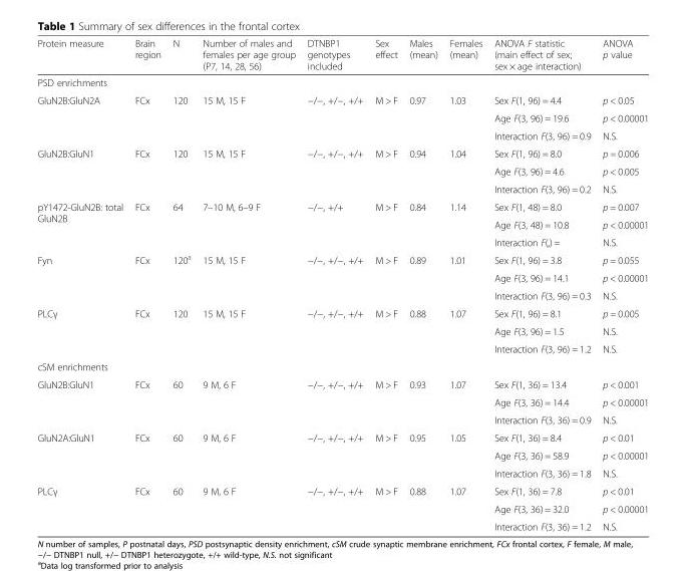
<table><thead><tr><td>Protein measure</td><td>Brain region</td><td>N</td><td>Number of males and females per age group (P7, 14, 28, 56)</td><td>DTNBP1 genotypes included</td><td>Sex effect</td><td>Males (mean)</td><td>Females (mean)</td><td>ANOVA F statistic (main effect of sex; sex × age interaction)</td><td>ANOVA p value</td></tr></thead><tbody><tr><td colspan="10">PSD enrichments</td></tr><tr><td rowspan="3">GluN2B:GluN2A</td><td rowspan="3">FCx</td><td rowspan="3">120</td><td>15 M, 15 F</td><td rowspan="3">−/−, +/−, +/+</td><td rowspan="3">M &gt; F</td><td rowspan="3">0.97</td><td rowspan="3">1.03</td><td>Sex F(1, 96) = 4.4</td><td>p &lt; 0.05</td></tr><tr><td rowspan="2"></td><td>Age F(3, 96) = 19.6</td><td>p &lt; 0.00001</td></tr><tr><td>Interaction F(3, 96) = 0.9</td><td>N.S.</td></tr><tr><td rowspan="3">GluN2B:GluN1</td><td rowspan="3">FCx</td><td rowspan="3">120</td><td>15 M, 15 F</td><td rowspan="3">−/−, +/−, +/+</td><td rowspan="3">M &gt; F</td><td rowspan="3">0.94</td><td rowspan="3">1.04</td><td>Sex F(1, 96) = 8.0</td><td>p = 0.006</td></tr><tr><td rowspan="2"></td><td>Age F(3, 96) = 4.6</td><td>p &lt; 0.005</td></tr><tr><td>Interaction F(3, 96) = 0.2</td><td>N.S.</td></tr><tr><td rowspan="3">pY1472-GluN2B: total GluN2B</td><td rowspan="3">FCx</td><td rowspan="3">64</td><td>7–10 M, 6–9 F</td><td rowspan="3">−/−, +/+</td><td rowspan="3">M &gt; F</td><td rowspan="3">0.84</td><td rowspan="3">1.14</td><td>Sex F(1, 48) = 8.0</td><td>p = 0.007</td></tr><tr><td rowspan="2"></td><td>Age F(3, 48) = 10.8</td><td>p &lt; 0.00001</td></tr><tr><td>Interaction F(,) =</td><td>N.S.</td></tr><tr><td rowspan="3">Fyn</td><td rowspan="3">FCx</td><td rowspan="3">120<sup>a</sup></td><td>15 M, 15 F</td><td rowspan="3">−/−, +/−, +/+</td><td rowspan="3">M &gt; F</td><td rowspan="3">0.89</td><td rowspan="3">1.01</td><td>Sex F(1, 96) = 3.8</td><td>p = 0.055</td></tr><tr><td rowspan="2"></td><td>Age F(3, 96) = 14.1</td><td>p &lt; 0.00001</td></tr><tr><td>Interaction F(3, 96) = 0.3</td><td>N.S.</td></tr><tr><td rowspan="3">PLCγ</td><td rowspan="3">FCx</td><td rowspan="3">120</td><td>15 M, 15 F</td><td rowspan="3">−/−, +/−, +/+</td><td rowspan="3">M &gt; F</td><td rowspan="3">0.88</td><td rowspan="3">1.07</td><td>Sex F(1, 96) = 8.1</td><td>p = 0.005</td></tr><tr><td rowspan="2"></td><td>Age F(3, 96) = 1.5</td><td>N.S.</td></tr><tr><td>Interaction F(3, 96) = 1.2</td><td>N.S.</td></tr><tr><td colspan="10">cSM enrichments</td></tr><tr><td rowspan="3">GluN2B:GluN1</td><td rowspan="3">FCx</td><td rowspan="3">60</td><td>9 M, 6 F</td><td rowspan="3">−/−, +/−, +/+</td><td rowspan="3">M &gt; F</td><td rowspan="3">0.93</td><td rowspan="3">1.07</td><td>Sex F(1, 36) = 13.4</td><td>p &lt; 0.001</td></tr><tr><td rowspan="2"></td><td>Age F(3, 36) = 14.4</td><td>p &lt; 0.00001</td></tr><tr><td>Interaction F(3, 36) = 0.9</td><td>N.S.</td></tr><tr><td rowspan="3">GluN2A:GluN1</td><td rowspan="3">FCx</td><td rowspan="3">60</td><td>9 M, 6 F</td><td rowspan="3">−/−, +/−, +/+</td><td rowspan="3">M &gt; F</td><td rowspan="3">0.95</td><td rowspan="3">1.05</td><td>Sex F(1, 36) = 8.4</td><td>p &lt; 0.01</td></tr><tr><td rowspan="2"></td><td>Age F(3, 36) = 58.9</td><td>p &lt; 0.00001</td></tr><tr><td>Interaction F(3, 36) = 1.8</td><td>N.S.</td></tr><tr><td rowspan="3">PLCγ</td><td rowspan="3">FCx</td><td rowspan="3">60</td><td>9 M, 6 F</td><td rowspan="3">−/−, +/−, +/+</td><td rowspan="3">M &gt; F</td><td rowspan="3">0.88</td><td rowspan="3">1.07</td><td>Sex F(1, 36) = 7.8</td><td>p &lt; 0.01</td></tr><tr><td rowspan="2"></td><td>Age F(3, 36) = 32.0</td><td>p &lt; 0.00001</td></tr><tr><td>Interaction F(3, 36) = 1.2</td><td>N.S.</td></tr></tbody></table>